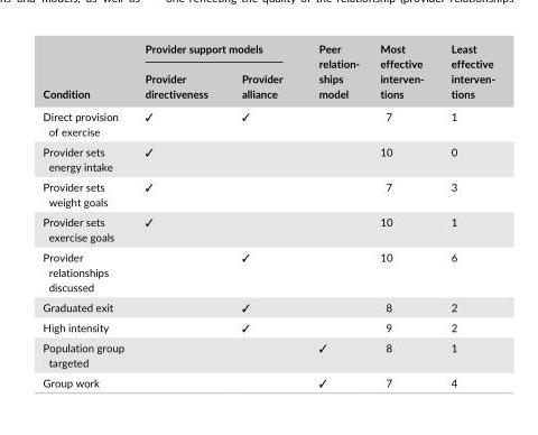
<table><thead><tr><td rowspan="2">Condition</td><td colspan="2">Provider support models</td><td rowspan="2">Peer relation- ships model</td><td rowspan="2">Most effective interven- tions</td><td rowspan="2">Least effective interven- tions</td></tr><tr><td>Provider directiveness</td><td>Provider alliance</td></tr></thead><tbody><tr><td>Direct provision of exercise</td><td>✓</td><td>✓</td><td></td><td>7</td><td>1</td></tr><tr><td>Provider sets energy intake</td><td>✓</td><td></td><td></td><td>10</td><td>0</td></tr><tr><td>Provider sets weight goals</td><td>✓</td><td></td><td></td><td>7</td><td>3</td></tr><tr><td>Provider sets exercise goals</td><td>✓</td><td></td><td></td><td>10</td><td>1</td></tr><tr><td>Provider relationships discussed</td><td></td><td>✓</td><td></td><td>10</td><td>6</td></tr><tr><td>Graduated exit</td><td></td><td>✓</td><td></td><td>8</td><td>2</td></tr><tr><td>High intensity</td><td></td><td>✓</td><td></td><td>9</td><td>2</td></tr><tr><td>Population group targeted</td><td></td><td></td><td>✓</td><td>8</td><td>1</td></tr><tr><td>Group work</td><td></td><td></td><td>✓</td><td>7</td><td>4</td></tr></tbody></table>